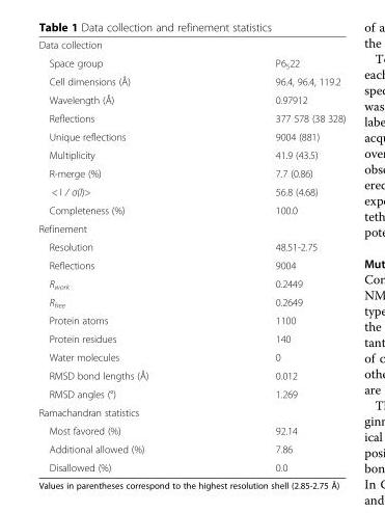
<table><tbody><tr><td colspan="2">Data collection</td></tr><tr><td>Space group</td><td>P6<sub>5</sub>22</td></tr><tr><td>Cell dimensions (Å)</td><td>96.4, 96.4, 119.2</td></tr><tr><td>Wavelength (Å)</td><td>0.97912</td></tr><tr><td>Reflections</td><td>377 578 (38 328)</td></tr><tr><td>Unique reflections</td><td>9004 (881)</td></tr><tr><td>Multiplicity</td><td>41.9 (43.5)</td></tr><tr><td>R-merge (%)</td><td>7.7 (0.86)</td></tr><tr><td>&lt; I / σ(I)&gt;</td><td>56.8 (4.68)</td></tr><tr><td>Completeness (%)</td><td>100.0</td></tr><tr><td colspan="2">Refinement</td></tr><tr><td>Resolution</td><td>48.51-2.75</td></tr><tr><td>Reflections</td><td>9004</td></tr><tr><td>R<sub>work</sub></td><td>0.2449</td></tr><tr><td>R<sub>free</sub></td><td>0.2649</td></tr><tr><td>Protein atoms</td><td>1100</td></tr><tr><td>Protein residues</td><td>140</td></tr><tr><td>Water molecules</td><td>0</td></tr><tr><td>RMSD bond lengths (Å)</td><td>0.012</td></tr><tr><td>RMSD angles (°)</td><td>1.269</td></tr><tr><td colspan="2">Ramachandran statistics</td></tr><tr><td>Most favored (%)</td><td>92.14</td></tr><tr><td>Additional allowed (%)</td><td>7.86</td></tr><tr><td>Disallowed (%)</td><td>0.0</td></tr></tbody></table>